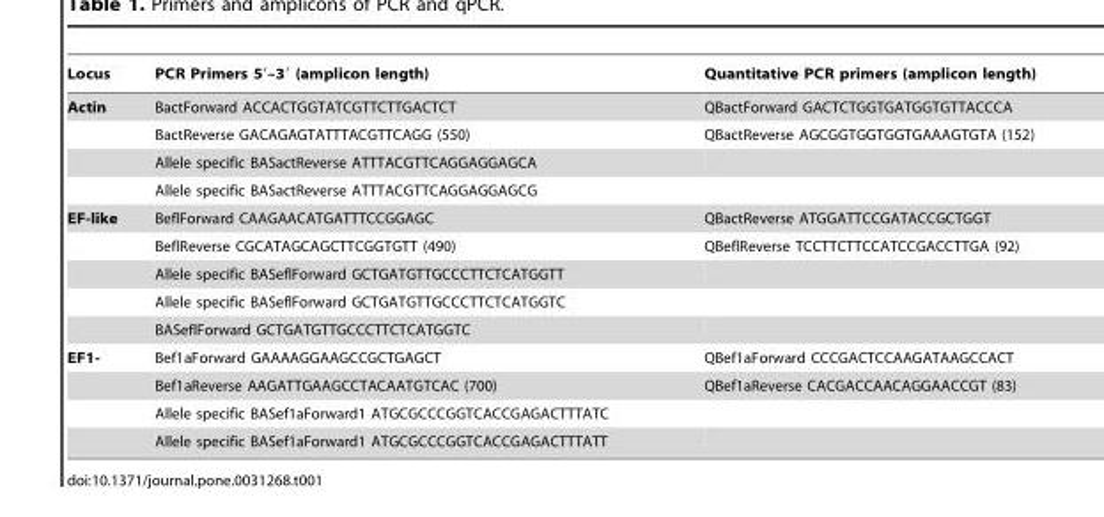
<table><thead><tr><td>Locus</td><td>PCR Primers 5′–3′ (amplicon length)</td><td>Quantitative PCR primers (amplicon length)</td></tr></thead><tbody><tr><td rowspan="4">Actin</td><td>BactForward ACCACTGGTATCGTTCTTGACTCT</td><td>QBactForward GACTCTGGTGATGGTGTTACCCA</td></tr><tr><td>BactReverse GACAGAGTATTTACGTTCAGG (550)</td><td>QBactReverse AGCGGTGGTGGTGAAAGTGTA (152)</td></tr><tr><td>Allele specific BASactReverse ATTTACGTTCAGGAGGAGCA</td><td></td></tr><tr><td>Allele specific BASactReverse ATTTACGTTCAGGAGGAGCG</td><td></td></tr><tr><td rowspan="5">EF-like</td><td>BeflForward CAAGAACATGATTTCCGGAGC</td><td>QBactReverse ATGGATTCCGATACCGCTGGT</td></tr><tr><td>BeflReverse CGCATAGCAGCTTCGGTGTT (490)</td><td>QBeflReverse TCCTTCTTCCATCCGACCTTGA (92)</td></tr><tr><td>Allele specific BASeflForward GCTGATGTTGCCCTTCTCATGGTT</td><td></td></tr><tr><td>Allele specific BASeflForward GCTGATGTTGCCCTTCTCATGGTC</td><td></td></tr><tr><td>BASeflForward GCTGATGTTGCCCTTCTCATGGTC</td><td></td></tr><tr><td rowspan="4">EF1-</td><td>Bef1aForward GAAAAGGAAGCCGCTGAGCT</td><td>QBef1aForward CCCGACTCCAAGATAAGCCACT</td></tr><tr><td>Bef1aReverse AAGATTGAAGCCTACAATGTCAC (700)</td><td>QBef1aReverse CACGACCAACAGGAACCGT (83)</td></tr><tr><td>Allele specific BASef1aForward1 ATGCGCCCGGTCACCGAGACTTTATC</td><td></td></tr><tr><td>Allele specific BASef1aForward1 ATGCGCCCGGTCACCGAGACTTTATT</td><td></td></tr></tbody></table>